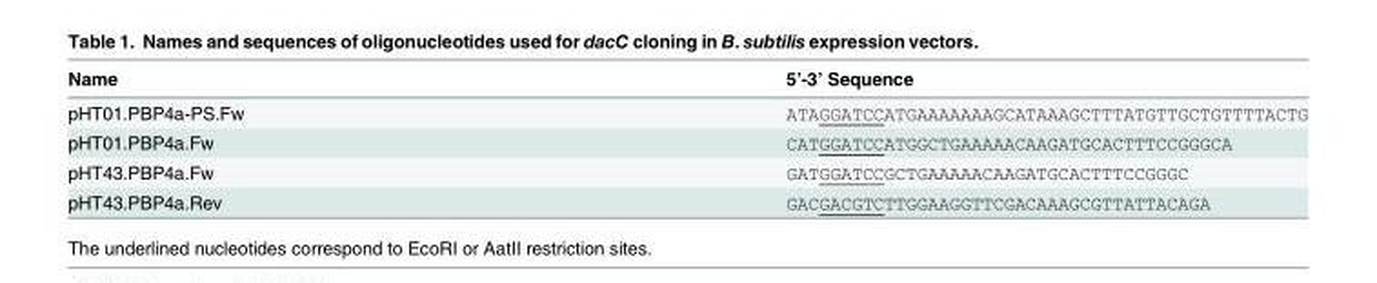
<table><thead><tr><td>Name</td><td>5’-3’ Sequence</td></tr></thead><tbody><tr><td>pHT01.PBP4a-PS.Fw</td><td>ATAGGATCCATGAAAAAAAGCATAAAGCTTTATGTTGCTGTTTTACTG</td></tr><tr><td>pHT01.PBP4a.Fw</td><td>CATGGATCCATGGCTGAAAAACAAGATGCACTTTCCGGGCA</td></tr><tr><td>pHT43.PBP4a.Fw</td><td>GATGGATCCGCTGAAAAACAAGATGCACTTTCCGGGC</td></tr><tr><td>pHT43.PBP4a.Rev</td><td>GACGACGTCTTGGAAGGTTCGACAAAGCGTTATTACAGA</td></tr></tbody></table>